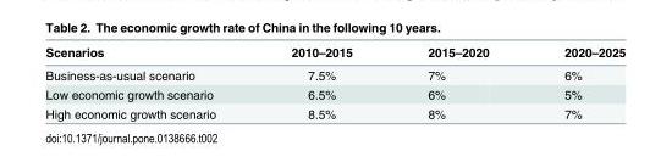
<table><thead><tr><td>Scenarios</td><td>2010–2015</td><td>2015–2020</td><td>2020–2025</td></tr></thead><tbody><tr><td>Business-as-usual scenario</td><td>7.5%</td><td>7%</td><td>6%</td></tr><tr><td>Low economic growth scenario</td><td>6.5%</td><td>6%</td><td>5%</td></tr><tr><td>High economic growth scenario</td><td>8.5%</td><td>8%</td><td>7%</td></tr></tbody></table>